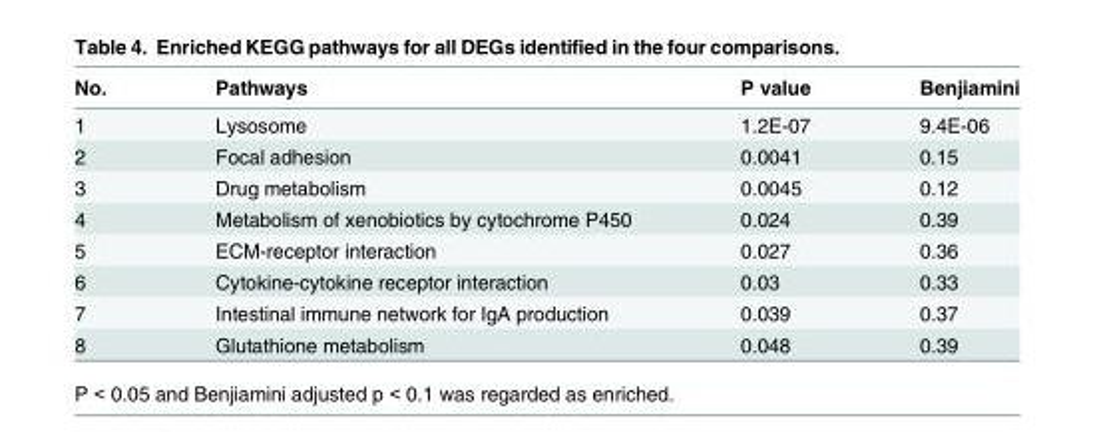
<table><thead><tr><td>No.</td><td>Pathways</td><td>P value</td><td>Benjiamini</td></tr></thead><tbody><tr><td>1</td><td>Lysosome</td><td>1.2E-07</td><td>9.4E-06</td></tr><tr><td>2</td><td>Focal adhesion</td><td>0.0041</td><td>0.15</td></tr><tr><td>3</td><td>Drug metabolism</td><td>0.0045</td><td>0.12</td></tr><tr><td>4</td><td>Metabolism of xenobiotics by cytochrome P450</td><td>0.024</td><td>0.39</td></tr><tr><td>5</td><td>ECM-receptor interaction</td><td>0.027</td><td>0.36</td></tr><tr><td>6</td><td>Cytokine-cytokine receptor interaction</td><td>0.03</td><td>0.33</td></tr><tr><td>7</td><td>Intestinal immune network for IgA production</td><td>0.039</td><td>0.37</td></tr><tr><td>8</td><td>Glutathione metabolism</td><td>0.048</td><td>0.39</td></tr></tbody></table>